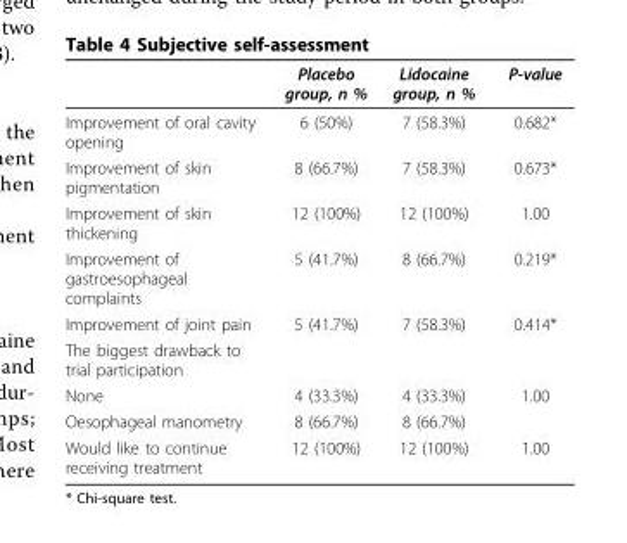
<table><thead><tr><td></td><td>Placebo group, n %</td><td>Lidocaine group, n %</td><td>P-value</td></tr></thead><tbody><tr><td>Improvement of oral cavity opening</td><td>6 (50%)</td><td>7 (58.3%)</td><td>0.682*</td></tr><tr><td>Improvement of skin pigmentation</td><td>8 (66.7%)</td><td>7 (58.3%)</td><td>0.673*</td></tr><tr><td>Improvement of skin thickening</td><td>12 (100%)</td><td>12 (100%)</td><td>1.00</td></tr><tr><td>Improvement of gastroesophageal complaints</td><td>5 (41.7%)</td><td>8 (66.7%)</td><td>0.219*</td></tr><tr><td>Improvement of joint pain</td><td>5 (41.7%)</td><td>7 (58.3%)</td><td>0.414*</td></tr><tr><td colspan="4">The biggest drawback to trial participation</td></tr><tr><td>None</td><td>4 (33.3%)</td><td>4 (33.3%)</td><td>1.00</td></tr><tr><td>Oesophageal manometry</td><td>8 (66.7%)</td><td>8 (66.7%)</td><td></td></tr><tr><td>Would like to continue receiving treatment</td><td>12 (100%)</td><td>12 (100%)</td><td>1.00</td></tr></tbody></table>